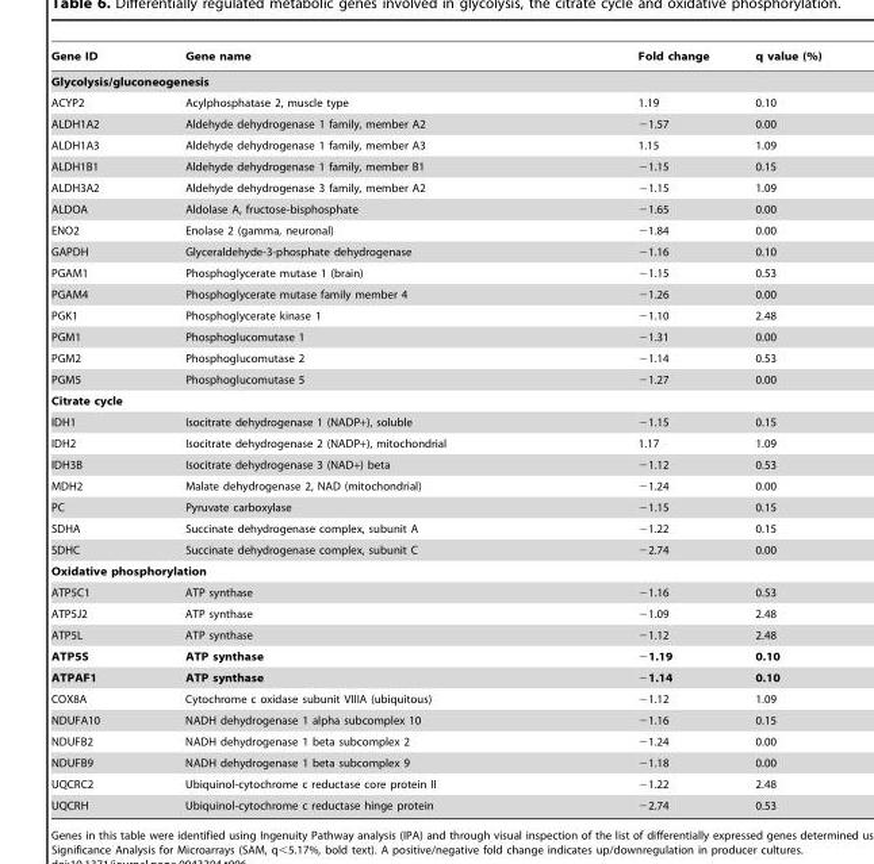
<table><thead><tr><td>Gene ID</td><td>Gene name</td><td>Fold change</td><td>q value (%)</td></tr></thead><tbody><tr><td colspan="4">Glycolysis/gluconeogenesis</td></tr><tr><td>ACYP2</td><td>Acylphosphatase 2, muscle type</td><td>1.19</td><td>0.10</td></tr><tr><td>ALDH1A2</td><td>Aldehyde dehydrogenase 1 family, member A2</td><td>−1.57</td><td>0.00</td></tr><tr><td>ALDH1A3</td><td>Aldehyde dehydrogenase 1 family, member A3</td><td>1.15</td><td>1.09</td></tr><tr><td>ALDH1B1</td><td>Aldehyde dehydrogenase 1 family, member B1</td><td>−1.15</td><td>0.15</td></tr><tr><td>ALDH3A2</td><td>Aldehyde dehydrogenase 3 family, member A2</td><td>−1.15</td><td>1.09</td></tr><tr><td>ALDOA</td><td>Aldolase A, fructose-bisphosphate</td><td>−1.65</td><td>0.00</td></tr><tr><td>ENO2</td><td>Enolase 2 (gamma, neuronal)</td><td>−1.84</td><td>0.00</td></tr><tr><td>GAPDH</td><td>Glyceraldehyde-3-phosphate dehydrogenase</td><td>−1.16</td><td>0.10</td></tr><tr><td>PGAM1</td><td>Phosphoglycerate mutase 1 (brain)</td><td>−1.15</td><td>0.53</td></tr><tr><td>PGAM4</td><td>Phosphoglycerate mutase family member 4</td><td>−1.26</td><td>0.00</td></tr><tr><td>PGK1</td><td>Phosphoglycerate kinase 1</td><td>−1.10</td><td>2.48</td></tr><tr><td>PGM1</td><td>Phosphoglucomutase 1</td><td>−1.31</td><td>0.00</td></tr><tr><td>PGM2</td><td>Phosphoglucomutase 2</td><td>−1.14</td><td>0.53</td></tr><tr><td>PGM5</td><td>Phosphoglucomutase 5</td><td>−1.27</td><td>0.00</td></tr><tr><td colspan="4">Citrate cycle</td></tr><tr><td>IDH1</td><td>Isocitrate dehydrogenase 1 (NADP+), soluble</td><td>−1.15</td><td>0.15</td></tr><tr><td>IDH2</td><td>Isocitrate dehydrogenase 2 (NADP+), mitochondrial</td><td>1.17</td><td>1.09</td></tr><tr><td>IDH3B</td><td>Isocitrate dehydrogenase 3 (NAD+) beta</td><td>−1.12</td><td>0.53</td></tr><tr><td>MDH2</td><td>Malate dehydrogenase 2, NAD (mitochondrial)</td><td>−1.24</td><td>0.00</td></tr><tr><td>PC</td><td>Pyruvate carboxylase</td><td>−1.15</td><td>0.15</td></tr><tr><td>SDHA</td><td>Succinate dehydrogenase complex, subunit A</td><td>−1.22</td><td>0.15</td></tr><tr><td>SDHC</td><td>Succinate dehydrogenase complex, subunit C</td><td>−2.74</td><td>0.00</td></tr><tr><td colspan="4">Oxidative phosphorylation</td></tr><tr><td>ATP5C1</td><td>ATP synthase</td><td>−1.16</td><td>0.53</td></tr><tr><td>ATP5J2</td><td>ATP synthase</td><td>−1.09</td><td>2.48</td></tr><tr><td>ATP5L</td><td>ATP synthase</td><td>−1.12</td><td>2.48</td></tr><tr><td>ATP5S</td><td>ATP synthase</td><td>−1.19</td><td>0.10</td></tr><tr><td>ATPAF1</td><td>ATP synthase</td><td>−1.14</td><td>0.10</td></tr><tr><td>COX8A</td><td>Cytochrome c oxidase subunit VIIIA (ubiquitous)</td><td>−1.12</td><td>1.09</td></tr><tr><td>NDUFA10</td><td>NADH dehydrogenase 1 alpha subcomplex 10</td><td>−1.16</td><td>0.15</td></tr><tr><td>NDUFB2</td><td>NADH dehydrogenase 1 beta subcomplex 2</td><td>−1.24</td><td>0.00</td></tr><tr><td>NDUFB9</td><td>NADH dehydrogenase 1 beta subcomplex 9</td><td>−1.18</td><td>0.00</td></tr><tr><td>UQCRC2</td><td>Ubiquinol-cytochrome c reductase core protein II</td><td>−1.22</td><td>2.48</td></tr><tr><td>UQCRH</td><td>Ubiquinol-cytochrome c reductase hinge protein</td><td>−2.74</td><td>0.53</td></tr></tbody></table>